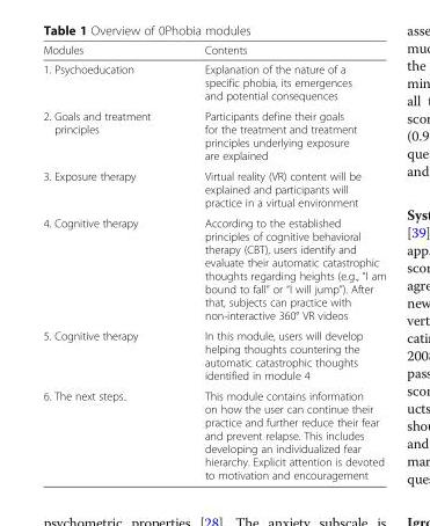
<table><thead><tr><td>Modules</td><td>Contents</td></tr></thead><tbody><tr><td>1. Psychoeducation</td><td>Explanation of the nature of a specific phobia, its emergences and potential consequences</td></tr><tr><td>2. Goals and treatment principles</td><td>Participants define their goals for the treatment and treatment principles underlying exposure are explained</td></tr><tr><td>3. Exposure therapy</td><td>Virtual reality (VR) content will be explained and participants will practice in a virtual environment</td></tr><tr><td>4. Cognitive therapy</td><td>According to the established principles of cognitive behavioral therapy (CBT), users identify and evaluate their automatic catastrophic thoughts regarding heights (e.g., “I am bound to fall” or “I will jump”). After that, subjects can practice with non-interactive 360° VR videos</td></tr><tr><td>5. Cognitive therapy</td><td>In this module, users will develop helping thoughts countering the automatic catastrophic thoughts identified in module 4</td></tr><tr><td>6. The next steps..</td><td>This module contains information on how the user can continue their practice and further reduce their fear and prevent relapse. This includes developing an individualized fear hierarchy. Explicit attention is devoted to motivation and encouragement</td></tr></tbody></table>